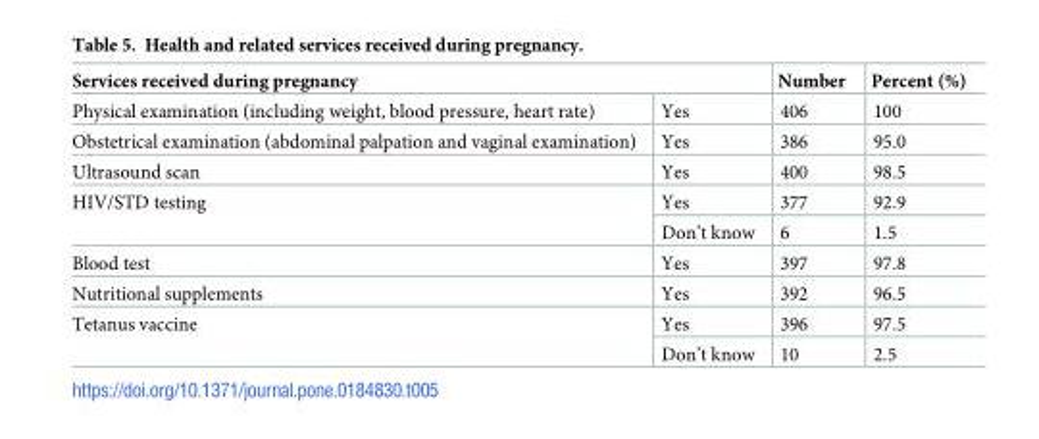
<table><thead><tr><td colspan="2">Services received during pregnancy</td><td rowspan="2">Number 406</td><td rowspan="2">Percent (%) 100</td></tr><tr><td>Physical examination (including weight, blood pressure, heart rate)</td><td>Yes</td></tr></thead><tbody><tr><td>Obstetrical examination (abdominal palpation and vaginal examination)</td><td>Yes</td><td>386</td><td>95.0</td></tr><tr><td>Ultrasound scan</td><td>Yes</td><td>400</td><td>98.5</td></tr><tr><td rowspan="2">HIV/STD testing</td><td>Yes</td><td>377</td><td>92.9</td></tr><tr><td>Don’t know</td><td>6</td><td>1.5</td></tr><tr><td>Blood test</td><td>Yes</td><td>397</td><td>97.8</td></tr><tr><td>Nutritional supplements</td><td>Yes</td><td>392</td><td>96.5</td></tr><tr><td rowspan="2">Tetanus vaccine</td><td>Yes</td><td>396</td><td>97.5</td></tr><tr><td>Don’t know</td><td>10</td><td>2.5</td></tr></tbody></table>